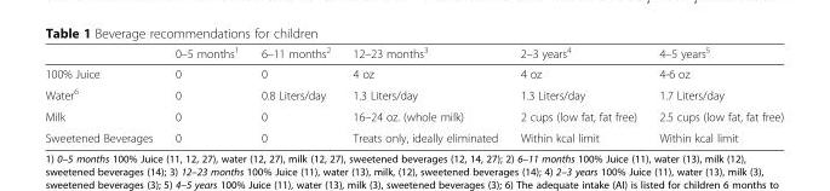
<table><thead><tr><td></td><td>0–5 months<sup>1</sup></td><td>6–11 months<sup>2</sup></td><td>12–23 months<sup>3</sup></td><td>2–3 years<sup>4</sup></td><td>4–5 years<sup>5</sup></td></tr></thead><tbody><tr><td>100% Juice</td><td>0</td><td>0</td><td>4 oz</td><td>4 oz</td><td>4-6 oz</td></tr><tr><td>Water<sup>6</sup></td><td>0</td><td>0.8 Liters/day</td><td>1.3 Liters/day</td><td>1.3 Liters/day</td><td>1.7 Liters/day</td></tr><tr><td>Milk</td><td>0</td><td>0</td><td>16–24 oz. (whole milk)</td><td>2 cups (low fat, fat free)</td><td>2.5 cups (low fat, fat free)</td></tr><tr><td>Sweetened Beverages</td><td>0</td><td>0</td><td>Treats only, ideally eliminated</td><td>Within kcal limit</td><td>Within kcal limit</td></tr></tbody></table>